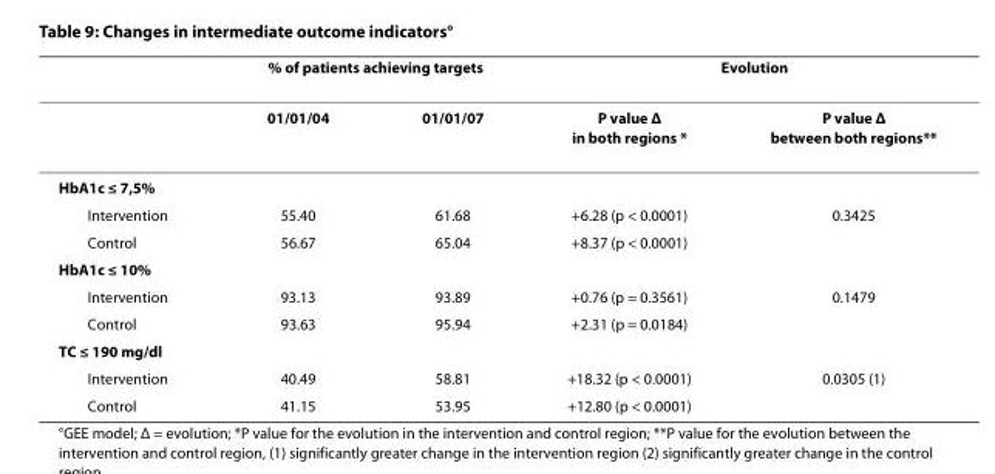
<table><thead><tr><td rowspan="2"></td><td colspan="2">% of patients achieving targets</td><td colspan="2">Evolution</td></tr><tr><td>01/01/04</td><td>01/01/07</td><td>P value Δ in both regions *</td><td>P value Δ between both regions**</td></tr></thead><tbody><tr><td colspan="5">HbA1c ≤ 7,5%</td></tr><tr><td>Intervention</td><td>55.40</td><td>61.68</td><td>+6.28 (p &lt; 0.0001)</td><td>0.3425</td></tr><tr><td>Control</td><td>56.67</td><td>65.04</td><td>+8.37 (p &lt; 0.0001)</td><td></td></tr><tr><td colspan="5">HbA1c ≤ 10%</td></tr><tr><td>Intervention</td><td>93.13</td><td>93.89</td><td>+0.76 (p = 0.3561)</td><td>0.1479</td></tr><tr><td>Control</td><td>93.63</td><td>95.94</td><td>+2.31 (p = 0.0184)</td><td></td></tr><tr><td colspan="5">TC ≤ 190 mg/dl</td></tr><tr><td>Intervention</td><td>40.49</td><td>58.81</td><td>+18.32 (p &lt; 0.0001)</td><td>0.0305 (1)</td></tr><tr><td>Control</td><td>41.15</td><td>53.95</td><td>+12.80 (p &lt; 0.0001)</td><td></td></tr></tbody></table>